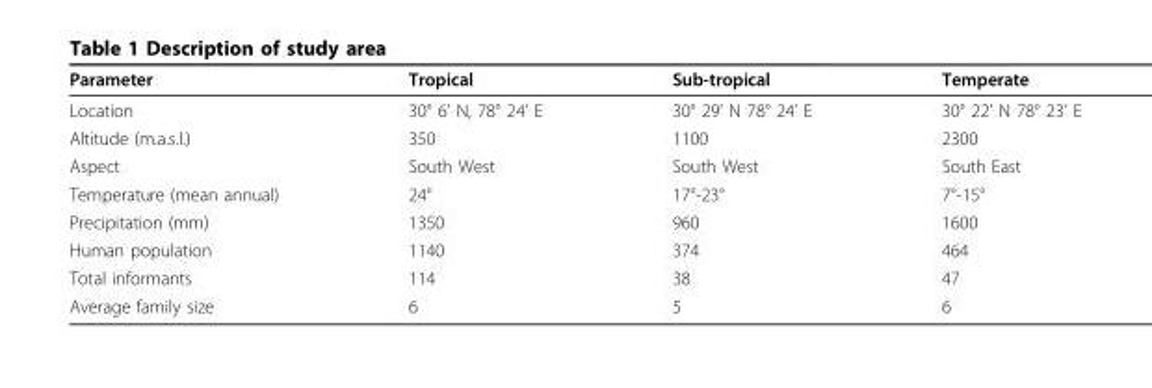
<table><thead><tr><td>Parameter</td><td>Tropical</td><td>Sub-tropical</td><td>Temperate</td></tr></thead><tbody><tr><td>Location</td><td>30° 6’ N, 78° 24’ E</td><td>30° 29’ N 78° 24’ E</td><td>30° 22’ N 78° 23’ E</td></tr><tr><td>Altitude (m.a.s.l.)</td><td>350</td><td>1100</td><td>2300</td></tr><tr><td>Aspect</td><td>South West</td><td>South West</td><td>South East</td></tr><tr><td>Temperature (mean annual)</td><td>24°</td><td>17°-23°</td><td>7°-15°</td></tr><tr><td>Precipitation (mm)</td><td>1350</td><td>960</td><td>1600</td></tr><tr><td>Human population</td><td>1140</td><td>374</td><td>464</td></tr><tr><td>Total informants</td><td>114</td><td>38</td><td>47</td></tr><tr><td>Average family size</td><td>6</td><td>5</td><td>6</td></tr></tbody></table>